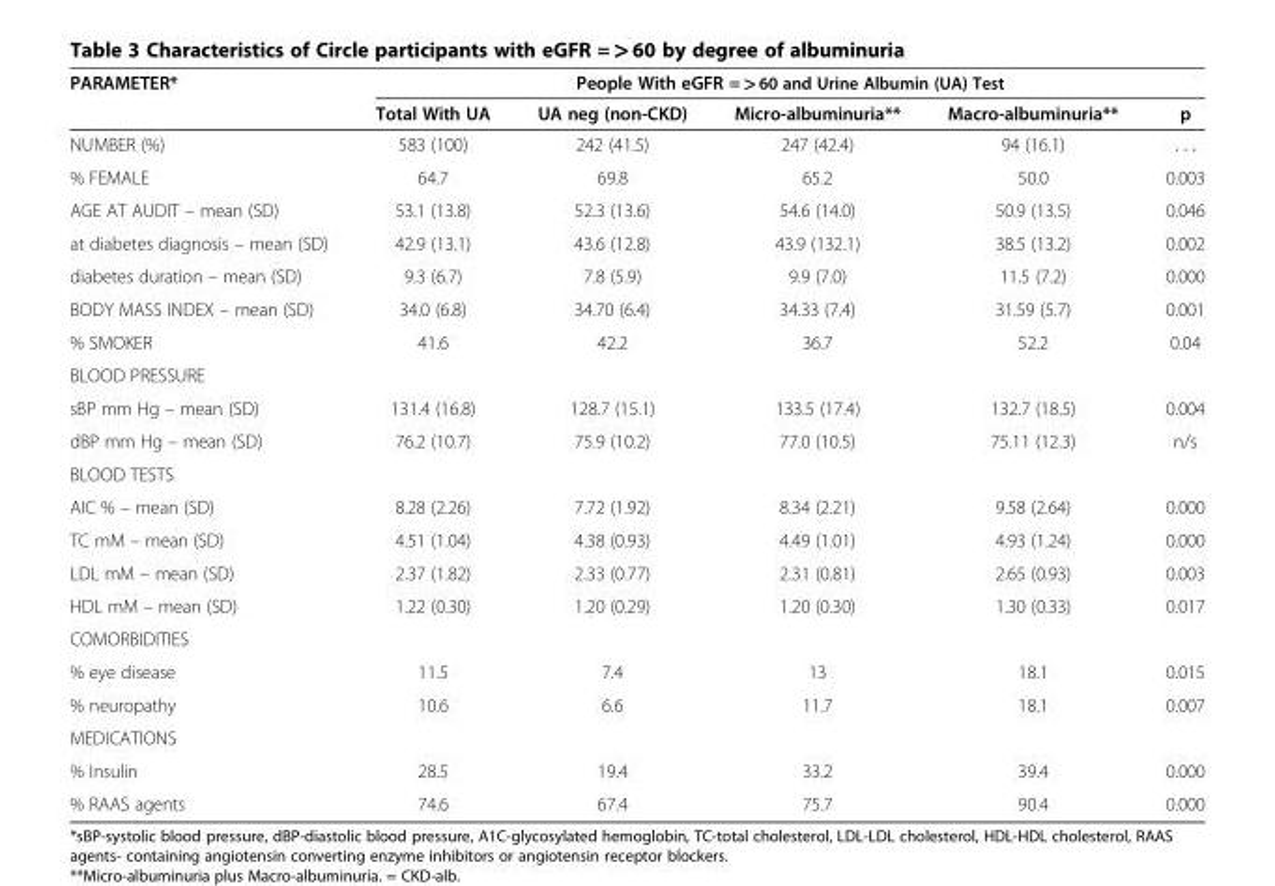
<table><thead><tr><td rowspan="2">PARAMETER*</td><td colspan="5">People With eGFR =&gt; 60 and Urine Albumin (UA) Test</td></tr><tr><td>Total With UA</td><td>UA neg (non-CKD)</td><td>Micro-albuminuria**</td><td>Macro-albuminuria**</td><td>p</td></tr></thead><tbody><tr><td>NUMBER (%)</td><td>583 (100)</td><td>242 (41.5)</td><td>247 (42.4)</td><td>94 (16.1)</td><td>. . .</td></tr><tr><td>% FEMALE</td><td>64.7</td><td>69.8</td><td>65.2</td><td>50.0</td><td>0.003</td></tr><tr><td>AGE AT AUDIT – mean (SD)</td><td>53.1 (13.8)</td><td>52.3 (13.6)</td><td>54.6 (14.0)</td><td>50.9 (13.5)</td><td>0.046</td></tr><tr><td>at diabetes diagnosis – mean (SD)</td><td>42.9 (13.1)</td><td>43.6 (12.8)</td><td>43.9 (132.1)</td><td>38.5 (13.2)</td><td>0.002</td></tr><tr><td>diabetes duration – mean (SD)</td><td>9.3 (6.7)</td><td>7.8 (5.9)</td><td>9.9 (7.0)</td><td>11.5 (7.2)</td><td>0.000</td></tr><tr><td>BODY MASS INDEX – mean (SD)</td><td>34.0 (6.8)</td><td>34.70 (6.4)</td><td>34.33 (7.4)</td><td>31.59 (5.7)</td><td>0.001</td></tr><tr><td>% SMOKER</td><td>41.6</td><td>42.2</td><td>36.7</td><td>52.2</td><td>0.04</td></tr><tr><td colspan="6">BLOOD PRESSURE</td></tr><tr><td>sBP mm Hg – mean (SD)</td><td>131.4 (16.8)</td><td>128.7 (15.1)</td><td>133.5 (17.4)</td><td>132.7 (18.5)</td><td>0.004</td></tr><tr><td>dBP mm Hg – mean (SD)</td><td>76.2 (10.7)</td><td>75.9 (10.2)</td><td>77.0 (10.5)</td><td>75.11 (12.3)</td><td>n/s</td></tr><tr><td colspan="6">BLOOD TESTS</td></tr><tr><td>AIC % – mean (SD)</td><td>8.28 (2.26)</td><td>7.72 (1.92)</td><td>8.34 (2.21)</td><td>9.58 (2.64)</td><td>0.000</td></tr><tr><td>TC mM – mean (SD)</td><td>4.51 (1.04)</td><td>4.38 (0.93)</td><td>4.49 (1.01)</td><td>4.93 (1.24)</td><td>0.000</td></tr><tr><td>LDL mM – mean (SD)</td><td>2.37 (1.82)</td><td>2.33 (0.77)</td><td>2.31 (0.81)</td><td>2.65 (0.93)</td><td>0.003</td></tr><tr><td>HDL mM – mean (SD)</td><td>1.22 (0.30)</td><td>1.20 (0.29)</td><td>1.20 (0.30)</td><td>1.30 (0.33)</td><td>0.017</td></tr><tr><td colspan="6">COMORBIDITIES</td></tr><tr><td>% eye disease</td><td>11.5</td><td>7.4</td><td>13</td><td>18.1</td><td>0.015</td></tr><tr><td>% neuropathy</td><td>10.6</td><td>6.6</td><td>11.7</td><td>18.1</td><td>0.007</td></tr><tr><td colspan="6">MEDICATIONS</td></tr><tr><td>% Insulin</td><td>28.5</td><td>19.4</td><td>33.2</td><td>39.4</td><td>0.000</td></tr><tr><td>% RAAS agents</td><td>74.6</td><td>67.4</td><td>75.7</td><td>90.4</td><td>0.000</td></tr></tbody></table>